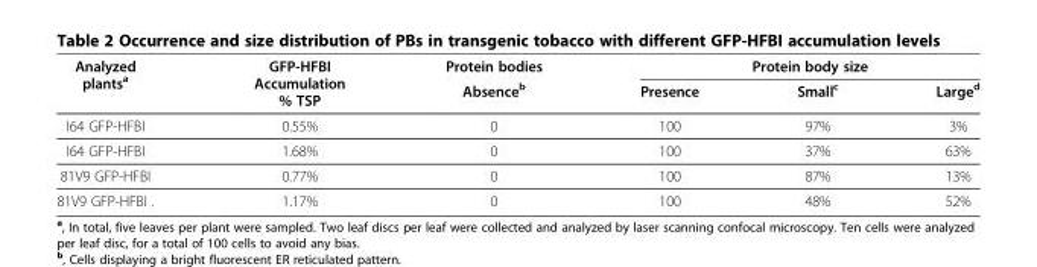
<table><thead><tr><td rowspan="2">Analyzed plants<sup>a</sup></td><td rowspan="2">GFP-HFBI Accumulation % TSP</td><td rowspan="2">Protein bodies Absence<sup>b</sup></td><td colspan="3">Protein body size</td></tr><tr><td>Presence</td><td>Small<sup>c</sup></td><td>Large<sup>d</sup></td></tr></thead><tbody><tr><td>I64 GFP-HFBI</td><td>0.55%</td><td>0</td><td>100</td><td>97%</td><td>3%</td></tr><tr><td>I64 GFP-HFBI</td><td>1.68%</td><td>0</td><td>100</td><td>37%</td><td>63%</td></tr><tr><td>81V9 GFP-HFBI</td><td>0.77%</td><td>0</td><td>100</td><td>87%</td><td>13%</td></tr><tr><td>81V9 GFP-HFBI .</td><td>1.17%</td><td>0</td><td>100</td><td>48%</td><td>52%</td></tr></tbody></table>